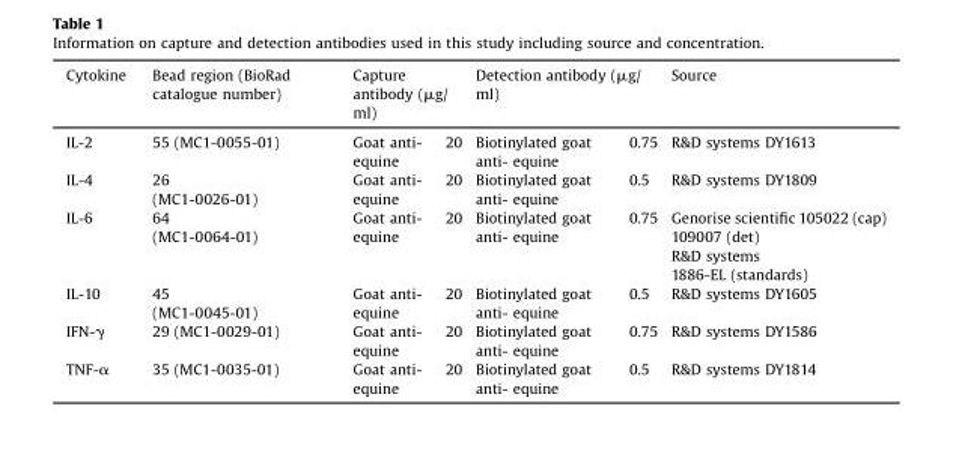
<table><thead><tr><td rowspan="2">Cytokine IL-2</td><td rowspan="2">Bead region (BioRad catalogue number) 55 (MC1-0055-01)</td><td colspan="2">Capture antibody (μg/ ml)</td><td colspan="2">Detection antibody (μg/ ml)</td><td rowspan="2">Source R&amp;D systems DY1613</td></tr><tr><td>Goat anti- equine</td><td>20</td><td>Biotinylated goat anti- equine</td><td>0.75</td></tr></thead><tbody><tr><td>IL-4</td><td>26 (MC1-0026-01)</td><td>Goat anti- equine</td><td>20</td><td>Biotinylated goat anti- equine</td><td>0.5</td><td>R&amp;D systems DY1809</td></tr><tr><td>IL-6</td><td>64 (MC1-0064-01)</td><td>Goat anti- equine</td><td>20</td><td>Biotinylated goat anti- equine</td><td>0.75</td><td>Genorise scientific 105022 (cap) 109007 (det) R&amp;D systems 1886-EL (standards)</td></tr><tr><td>IL-10</td><td>45 (MC1-0045-01)</td><td>Goat anti- equine</td><td>20</td><td>Biotinylated goat anti- equine</td><td>0.5</td><td>R&amp;D systems DY1605</td></tr><tr><td>IFN-γ</td><td>29 (MC1-0029-01)</td><td>Goat anti- equine</td><td>20</td><td>Biotinylated goat anti- equine</td><td>0.75</td><td>R&amp;D systems DY1586</td></tr><tr><td>TNF-α</td><td>35 (MC1-0035-01)</td><td>Goat anti- equine</td><td>20</td><td>Biotinylated goat anti- equine</td><td>0.5</td><td>R&amp;D systems DY1814</td></tr></tbody></table>